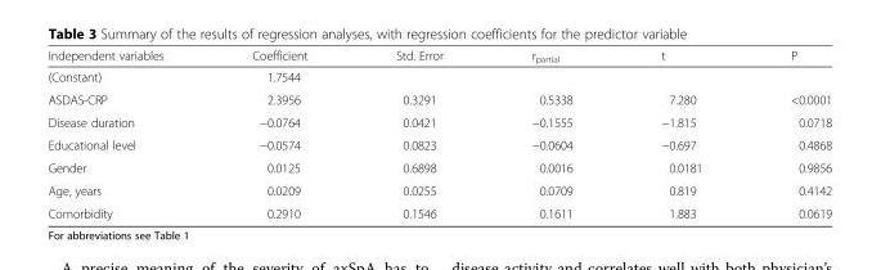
<table><thead><tr><td>Independent variables</td><td>Coefficient</td><td>Std. Error</td><td>r<sub>partial</sub></td><td>t</td><td>P</td></tr></thead><tbody><tr><td>(Constant)</td><td>1.7544</td><td></td><td></td><td></td><td></td></tr><tr><td>ASDAS-CRP</td><td>2.3956</td><td>0.3291</td><td>0.5338</td><td>7.280</td><td>&lt;0.0001</td></tr><tr><td>Disease duration</td><td>−0.0764</td><td>0.0421</td><td>−0.1555</td><td>−1.815</td><td>0.0718</td></tr><tr><td>Educational level</td><td>−0.0574</td><td>0.0823</td><td>−0.0604</td><td>−0.697</td><td>0.4868</td></tr><tr><td>Gender</td><td>0.0125</td><td>0.6898</td><td>0.0016</td><td>0.0181</td><td>0.9856</td></tr><tr><td>Age, years</td><td>0.0209</td><td>0.0255</td><td>0.0709</td><td>0.819</td><td>0.4142</td></tr><tr><td>Comorbidity</td><td>0.2910</td><td>0.1546</td><td>0.1611</td><td>1.883</td><td>0.0619</td></tr></tbody></table>